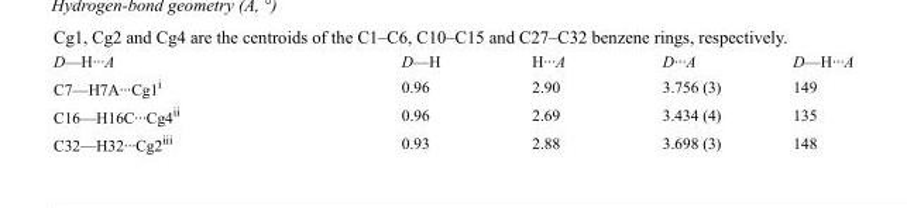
<table><tbody><tr><td>D—H···A</td><td>D—H</td><td>H···A</td><td>D···A</td><td>D—H···A</td></tr><tr><td>C7—H7A···Cg1<sup>i</sup></td><td>0.96</td><td>2.90</td><td>3.756 (3)</td><td>149</td></tr><tr><td>C16—H16C···Cg4<sup>ii</sup></td><td>0.96</td><td>2.69</td><td>3.434 (4)</td><td>135</td></tr><tr><td>C32—H32···Cg2<sup>iii</sup></td><td>0.93</td><td>2.88</td><td>3.698 (3)</td><td>148</td></tr></tbody></table>